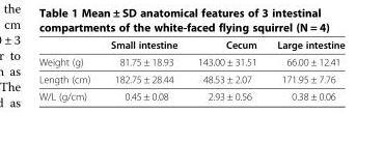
<table><thead><tr><td></td><td>Small intestine</td><td>Cecum</td><td>Large intestine</td></tr></thead><tbody><tr><td>Weight (g)</td><td>81.75 ± 18.93</td><td>143.00 ± 31.51</td><td>66.00 ± 12.41</td></tr><tr><td>Length (cm)</td><td>182.75 ± 28.44</td><td>48.53 ± 2.07</td><td>171.95 ± 7.76</td></tr><tr><td>W/L (g/cm)</td><td>0.45 ± 0.08</td><td>2.93 ± 0.56</td><td>0.38 ± 0.06</td></tr></tbody></table>